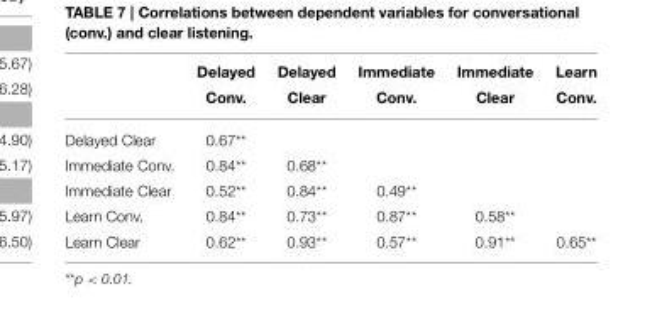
<table><thead><tr><td></td><td>Delayed Conv.</td><td>Delayed Clear</td><td>Immediate Conv.</td><td>Immediate Clear</td><td>Learn Conv.</td></tr></thead><tbody><tr><td>Delayed Clear</td><td>0.67**</td><td></td><td></td><td></td><td></td></tr><tr><td>Immediate Conv.</td><td>0.84**</td><td>0.68**</td><td></td><td></td><td></td></tr><tr><td>Immediate Clear</td><td>0.52**</td><td>0.84**</td><td>0.49**</td><td></td><td></td></tr><tr><td>Learn Conv.</td><td>0.84**</td><td>0.73**</td><td>0.87**</td><td>0.58**</td><td></td></tr><tr><td>Learn Clear</td><td>0.62**</td><td>0.93**</td><td>0.57**</td><td>0.91**</td><td>0.65**</td></tr></tbody></table>